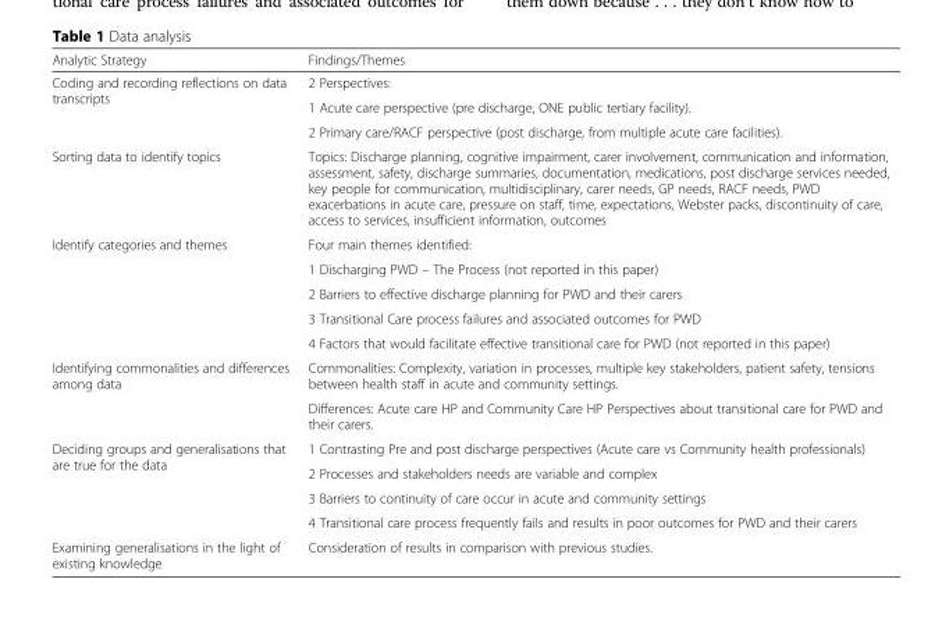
<table><thead><tr><td>Analytic Strategy</td><td>Findings/Themes</td></tr></thead><tbody><tr><td rowspan="3">Coding and recording reflections on data transcripts</td><td>2 Perspectives:</td></tr><tr><td>1 Acute care perspective (pre discharge, ONE public tertiary facility).</td></tr><tr><td>2 Primary care/RACF perspective (post discharge, from multiple acute care facilities).</td></tr><tr><td>Sorting data to identify topics</td><td>Topics: Discharge planning, cognitive impairment, carer involvement, communication and information, assessment, safety, discharge summaries, documentation, medications, post discharge services needed, key people for communication, multidisciplinary, carer needs, GP needs, RACF needs, PWD exacerbations in acute care, pressure on staff, time, expectations, Webster packs, discontinuity of care, access to services, insufficient information, outcomes</td></tr><tr><td rowspan="5">Identify categories and themes</td><td>Four main themes identified:</td></tr><tr><td>1 Discharging PWD – The Process (not reported in this paper)</td></tr><tr><td>2 Barriers to effective discharge planning for PWD and their carers</td></tr><tr><td>3 Transitional Care process failures and associated outcomes for PWD</td></tr><tr><td>4 Factors that would facilitate effective transitional care for PWD (not reported in this paper)</td></tr><tr><td rowspan="2">Identifying commonalities and differences among data</td><td>Commonalities: Complexity, variation in processes, multiple key stakeholders, patient safety, tensions between health staff in acute and community settings.</td></tr><tr><td>Differences: Acute care HP and Community Care HP Perspectives about transitional care for PWD and their carers.</td></tr><tr><td rowspan="4">Deciding groups and generalisations that are true for the data</td><td>1 Contrasting Pre and post discharge perspectives (Acute care vs Community health professionals)</td></tr><tr><td>2 Processes and stakeholders needs are variable and complex</td></tr><tr><td>3 Barriers to continuity of care occur in acute and community settings</td></tr><tr><td>4 Transitional care process frequently fails and results in poor outcomes for PWD and their carers</td></tr><tr><td>Examining generalisations in the light of existing knowledge</td><td>Consideration of results in comparison with previous studies.</td></tr></tbody></table>